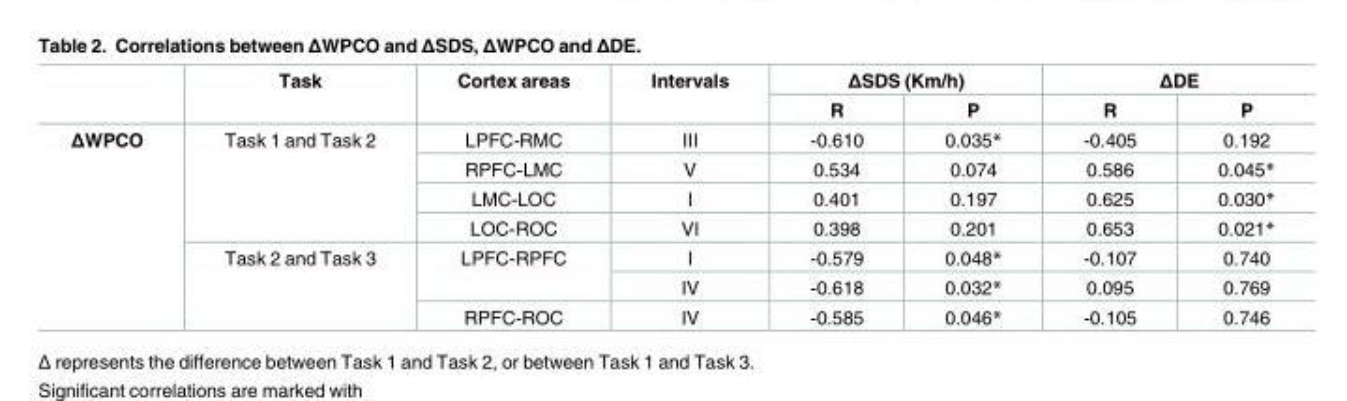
<table><thead><tr><td rowspan="2"></td><td rowspan="2">Task</td><td rowspan="2">Cortex areas</td><td rowspan="2">Intervals</td><td colspan="2">ΔSDS (Km/h)</td><td colspan="2">ΔDE</td></tr><tr><td>R</td><td>P</td><td>R</td><td>P</td></tr></thead><tbody><tr><td rowspan="7">ΔWPCO</td><td rowspan="4">Task 1 and Task 2</td><td>LPFC-RMC</td><td>III</td><td>-0.610</td><td>0.035*</td><td>-0.405</td><td>0.192</td></tr><tr><td>RPFC-LMC</td><td>V</td><td>0.534</td><td>0.074</td><td>0.586</td><td>0.045*</td></tr><tr><td>LMC-LOC</td><td>I</td><td>0.401</td><td>0.197</td><td>0.625</td><td>0.030*</td></tr><tr><td>LOC-ROC</td><td>VI</td><td>0.398</td><td>0.201</td><td>0.653</td><td>0.021*</td></tr><tr><td rowspan="3">Task 2 and Task 3</td><td rowspan="2">LPFC-RPFC</td><td>I</td><td>-0.579</td><td>0.048*</td><td>-0.107</td><td>0.740</td></tr><tr><td>IV</td><td>-0.618</td><td>0.032*</td><td>0.095</td><td>0.769</td></tr><tr><td>RPFC-ROC</td><td>IV</td><td>-0.585</td><td>0.046*</td><td>-0.105</td><td>0.746</td></tr></tbody></table>